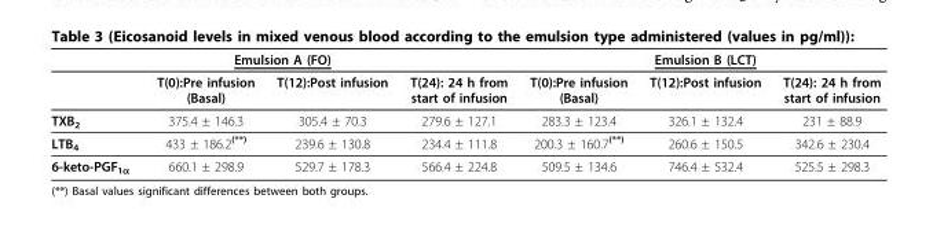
<table><thead><tr><td colspan="4">Emulsion A (FO)</td><td colspan="3">Emulsion B (LCT)</td></tr><tr><td></td><td>T(0):Pre infusion (Basal)</td><td>T(12):Post infusion</td><td>T(24): 24 h from start of infusion</td><td>T(0):Pre infusion (Basal)</td><td>T(12):Post infusion</td><td>T(24): 24 h from start of infusion</td></tr></thead><tbody><tr><td>TXB2</td><td>375.4 ± 146.3</td><td>305.4 ± 70.3</td><td>279.6 ± 127.1</td><td>283.3 ± 123.4</td><td>326.1 ± 132.4</td><td>231 ± 88.9</td></tr><tr><td>LTB4</td><td>433 ± 186.2(**)</td><td>239.6 ± 130.8</td><td>234.4 ± 111.8</td><td>200.3 ± 160.7(**)</td><td>260.6 ± 150.5</td><td>342.6 ± 230.4</td></tr><tr><td>6-keto-PGF1α</td><td>660.1 ± 298.9</td><td>529.7 ± 178.3</td><td>566.4 ± 224.8</td><td>509.5 ± 134.6</td><td>746.4 ± 532.4</td><td>525.5 ± 298.3</td></tr></tbody></table>